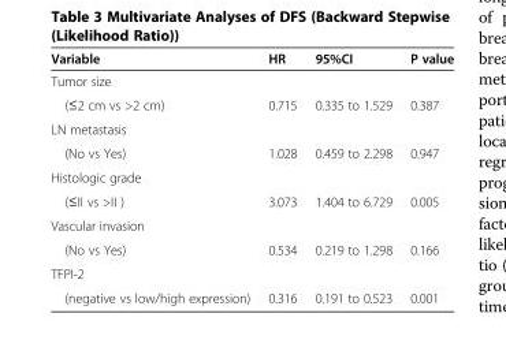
<table><thead><tr><td>Variable</td><td>HR</td><td>95%CI</td><td>P value</td></tr></thead><tbody><tr><td colspan="4">Tumor size</td></tr><tr><td>(≤2 cm vs &gt;2 cm)</td><td>0.715</td><td>0.335 to 1.529</td><td>0.387</td></tr><tr><td colspan="4">LN metastasis</td></tr><tr><td>(No vs Yes)</td><td>1.028</td><td>0.459 to 2.298</td><td>0.947</td></tr><tr><td colspan="4">Histologic grade</td></tr><tr><td>(≤II vs &gt;II )</td><td>3.073</td><td>1.404 to 6.729</td><td>0.005</td></tr><tr><td colspan="4">Vascular invasion</td></tr><tr><td>(No vs Yes)</td><td>0.534</td><td>0.219 to 1.298</td><td>0.166</td></tr><tr><td colspan="4">TFPI-2</td></tr><tr><td>(negative vs low/high expression)</td><td>0.316</td><td>0.191 to 0.523</td><td>0.001</td></tr></tbody></table>